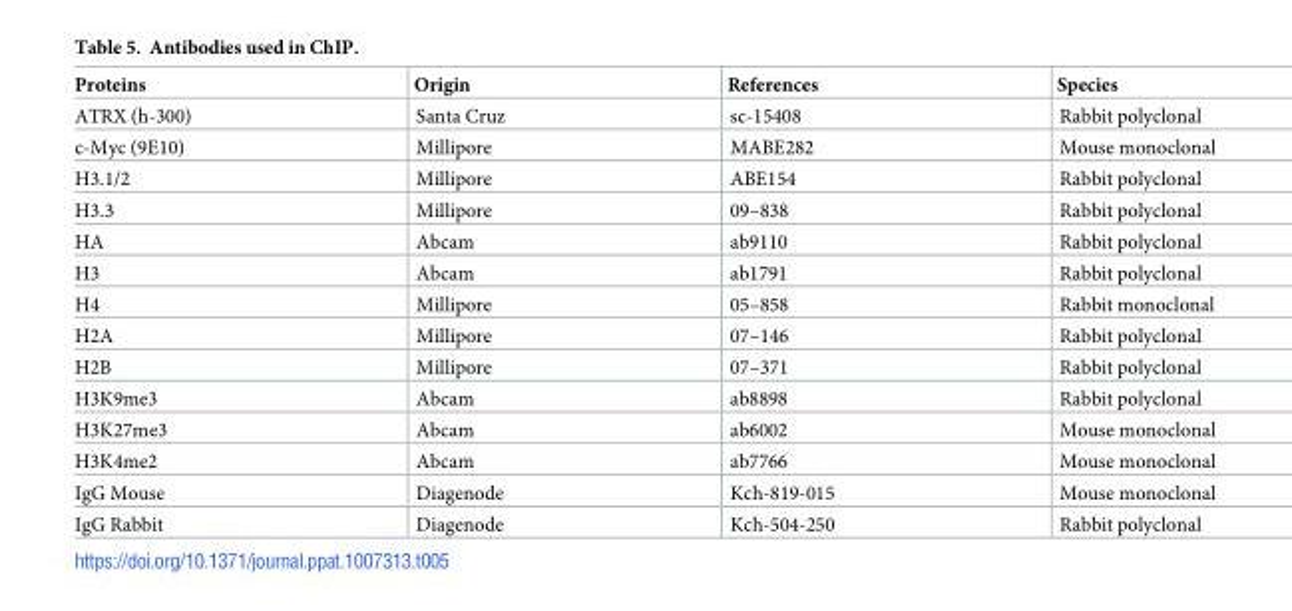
<table><thead><tr><td>Proteins</td><td>Origin</td><td>References</td><td>Species</td></tr></thead><tbody><tr><td>ATRX (h-300)</td><td>Santa Cruz</td><td>sc-15408</td><td>Rabbit polyclonal</td></tr><tr><td>c-Myc (9E10)</td><td>Millipore</td><td>MABE282</td><td>Mouse monoclonal</td></tr><tr><td>H3.1/2</td><td>Millipore</td><td>ABE154</td><td>Rabbit polyclonal</td></tr><tr><td>H3.3</td><td>Millipore</td><td>09–838</td><td>Rabbit polyclonal</td></tr><tr><td>HA</td><td>Abcam</td><td>ab9110</td><td>Rabbit polyclonal</td></tr><tr><td>H3</td><td>Abcam</td><td>ab1791</td><td>Rabbit polyclonal</td></tr><tr><td>H4</td><td>Millipore</td><td>05–858</td><td>Rabbit monoclonal</td></tr><tr><td>H2A</td><td>Millipore</td><td>07–146</td><td>Rabbit polyclonal</td></tr><tr><td>H2B</td><td>Millipore</td><td>07–371</td><td>Rabbit polyclonal</td></tr><tr><td>H3K9me3</td><td>Abcam</td><td>ab8898</td><td>Rabbit polyclonal</td></tr><tr><td>H3K27me3</td><td>Abcam</td><td>ab6002</td><td>Mouse monoclonal</td></tr><tr><td>H3K4me2</td><td>Abcam</td><td>ab7766</td><td>Mouse monoclonal</td></tr><tr><td>IgG Mouse</td><td>Diagenode</td><td>Kch-819-015</td><td>Mouse monoclonal</td></tr><tr><td>IgG Rabbit</td><td>Diagenode</td><td>Kch-504-250</td><td>Rabbit polyclonal</td></tr></tbody></table>